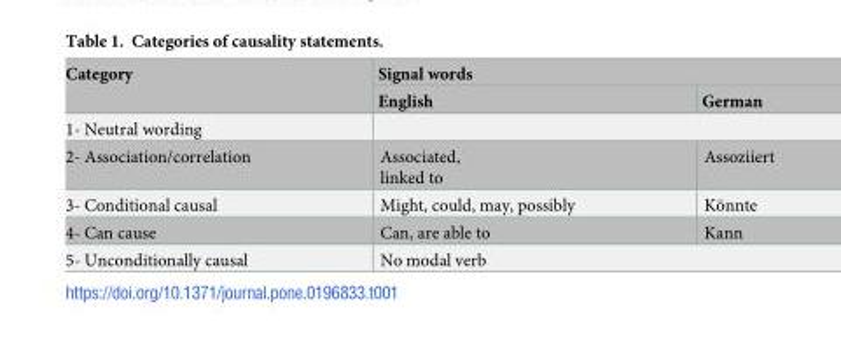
<table><thead><tr><td rowspan="2">Category</td><td colspan="2">Signal words</td></tr><tr><td>English</td><td>German</td></tr></thead><tbody><tr><td colspan="3">1- Neutral wording</td></tr><tr><td>2- Association/correlation</td><td>Associated, linked to</td><td>Assoziiert</td></tr><tr><td>3- Conditional causal</td><td>Might, could, may, possibly</td><td>Ko¨nnte</td></tr><tr><td>4- Can cause</td><td>Can, are able to</td><td>Kann</td></tr><tr><td>5- Unconditionally causal</td><td colspan="2">No modal verb</td></tr></tbody></table>